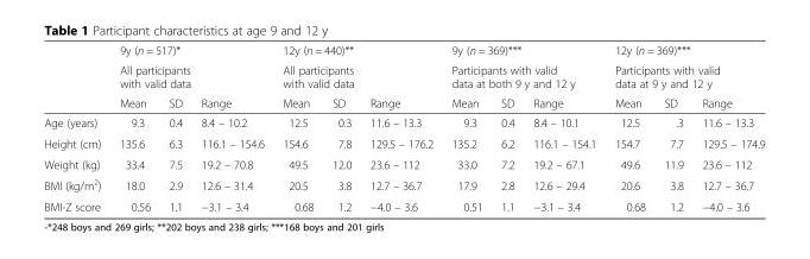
<table><thead><tr><td rowspan="3"></td><td rowspan="2" colspan="3">9y (n = 517)* All participants with valid data</td><td rowspan="2" colspan="3">12y (n = 440)** All participants with valid data</td><td rowspan="2" colspan="3">9y (n = 369)*** Participants with valid data at both 9 y and 12 y</td><td rowspan="2" colspan="3">12y (n = 369)*** Participants with valid data at 9 y and 12 y</td></tr><tr></tr><tr><td>Mean</td><td>SD</td><td>Range</td><td>Mean</td><td>SD</td><td>Range</td><td>Mean</td><td>SD</td><td>Range</td><td>Mean</td><td>SD</td><td>Range</td></tr></thead><tbody><tr><td>Age (years)</td><td>9.3</td><td>0.4</td><td>8.4 – 10.2</td><td>12.5</td><td>0.3</td><td>11.6 – 13.3</td><td>9.3</td><td>0.4</td><td>8.4 – 10.1</td><td>12.5</td><td>.3</td><td>11.6 – 13.3</td></tr><tr><td>Height (cm)</td><td>135.6</td><td>6.3</td><td>116.1 – 154.6</td><td>154.6</td><td>7.8</td><td>129.5 – 176.2</td><td>135.2</td><td>6.2</td><td>116.1 – 154.1</td><td>154.7</td><td>7.7</td><td>129.5 – 174.9</td></tr><tr><td>Weight (kg)</td><td>33.4</td><td>7.5</td><td>19.2 – 70.8</td><td>49.5</td><td>12.0</td><td>23.6 – 112</td><td>33.0</td><td>7.2</td><td>19.2 – 67.1</td><td>49.6</td><td>11.9</td><td>23.6 – 112</td></tr><tr><td>BMI (kg/m<sup>2</sup>)</td><td>18.0</td><td>2.9</td><td>12.6 – 31.4</td><td>20.5</td><td>3.8</td><td>12.7 – 36.7</td><td>17.9</td><td>2.8</td><td>12.6 – 29.4</td><td>20.6</td><td>3.8</td><td>12.7 – 36.7</td></tr><tr><td>BMI-Z score</td><td>0.56</td><td>1.1</td><td>−3.1 – 3.4</td><td>0.68</td><td>1.2</td><td>−4.0 – 3.6</td><td>0.51</td><td>1.1</td><td>−3.1 – 3.4</td><td>0.68</td><td>1.2</td><td>−4.0 – 3.6</td></tr></tbody></table>